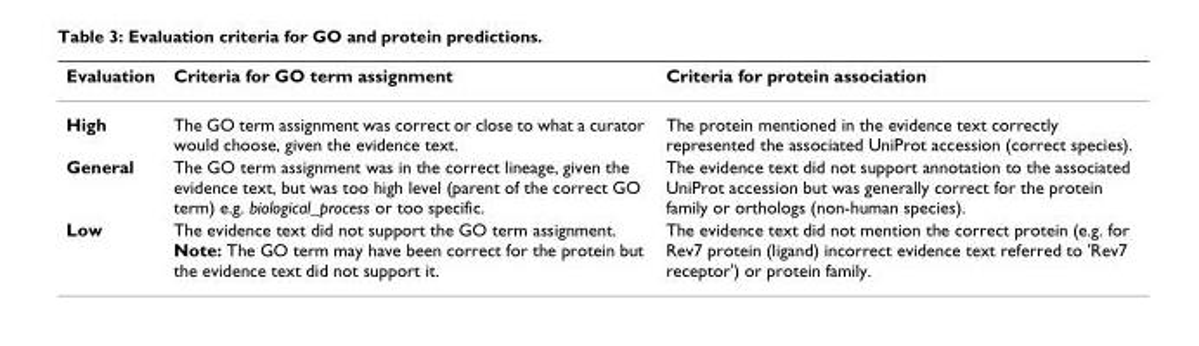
<table><thead><tr><td>Evaluation</td><td>Criteria for GO term assignment</td><td>Criteria for protein association</td></tr></thead><tbody><tr><td>High</td><td>The GO term assignment was correct or close to what a curator would choose, given the evidence text.</td><td>The protein mentioned in the evidence text correctly represented the associated UniProt accession (correct species).</td></tr><tr><td>General</td><td>The GO term assignment was in the correct lineage, given the evidence text, but was too high level (parent of the correct GO term) e.g. biological_process or too specific.</td><td>The evidence text did not support annotation to the associated UniProt accession but was generally correct for the protein family or orthologs (non-human species).</td></tr><tr><td>Low</td><td>The evidence text did not support the GO term assignment. Note: The GO term may have been correct for the protein but the evidence text did not support it.</td><td>The evidence text did not mention the correct protein (e.g. for Rev7 protein (ligand) incorrect evidence text referred to &#x27;Rev7 receptor&#x27;) or protein family.</td></tr></tbody></table>